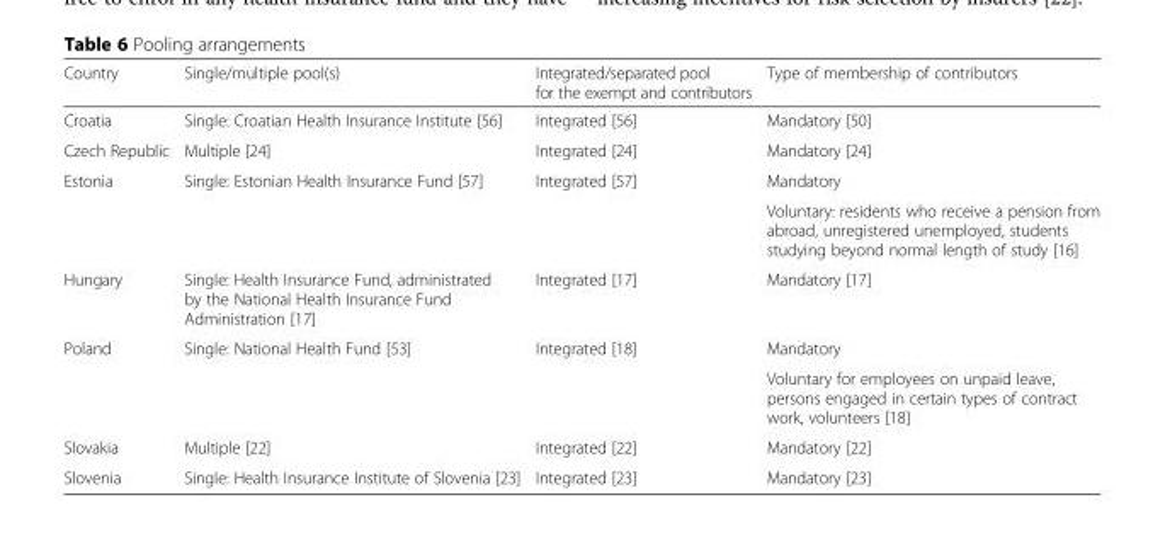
<table><thead><tr><td>Country</td><td>Single/multiple pool(s)</td><td>Integrated/separated pool for the exempt and contributors</td><td>Type of membership of contributors</td></tr></thead><tbody><tr><td>Croatia</td><td>Single: Croatian Health Insurance Institute [56]</td><td>Integrated [56]</td><td>Mandatory [50]</td></tr><tr><td>Czech Republic</td><td>Multiple [24]</td><td>Integrated [24]</td><td>Mandatory [24]</td></tr><tr><td rowspan="2">Estonia</td><td rowspan="2">Single: Estonian Health Insurance Fund [57]</td><td rowspan="2">Integrated [57]</td><td>Mandatory</td></tr><tr><td>Voluntary: residents who receive a pension from abroad, unregistered unemployed, students studying beyond normal length of study [16]</td></tr><tr><td>Hungary</td><td>Single: Health Insurance Fund, administrated by the National Health Insurance Fund Administration [17]</td><td>Integrated [17]</td><td>Mandatory [17]</td></tr><tr><td rowspan="2">Poland</td><td rowspan="2">Single: National Health Fund [53]</td><td rowspan="2">Integrated [18]</td><td>Mandatory</td></tr><tr><td>Voluntary for employees on unpaid leave, persons engaged in certain types of contract work, volunteers [18]</td></tr><tr><td>Slovakia</td><td>Multiple [22]</td><td>Integrated [22]</td><td>Mandatory [22]</td></tr><tr><td>Slovenia</td><td>Single: Health Insurance Institute of Slovenia [23]</td><td>Integrated [23]</td><td>Mandatory [23]</td></tr></tbody></table>